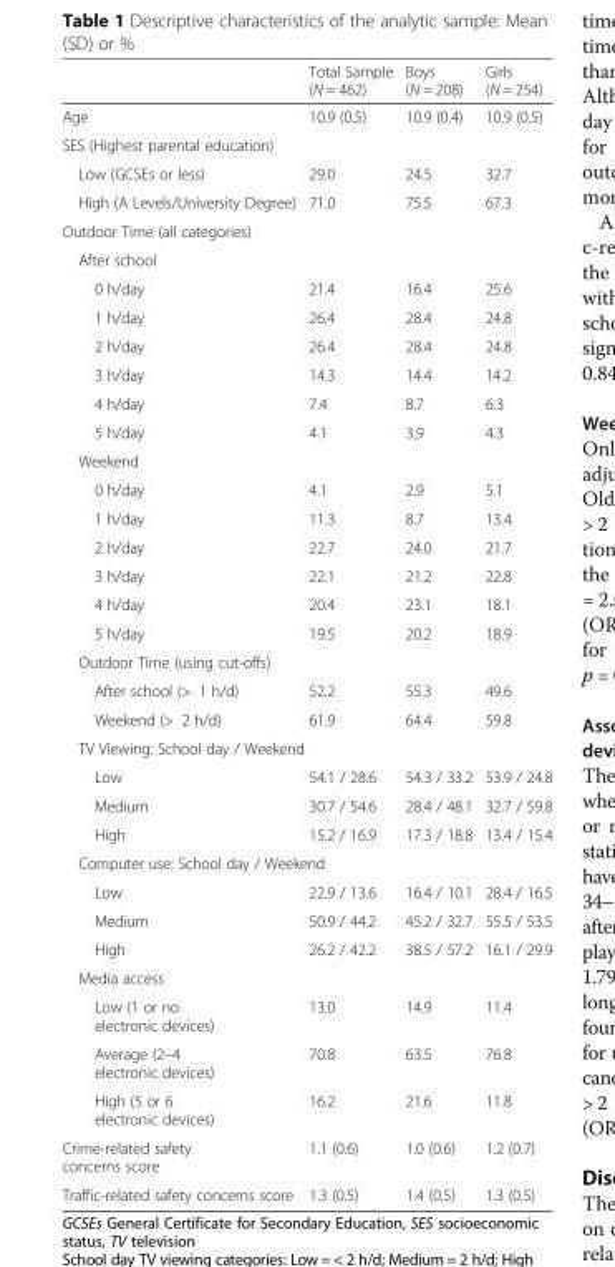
<table><thead><tr><td></td><td>Total Sample (N = 462)</td><td>Boys (N = 208)</td><td>Girls (N = 254)</td></tr></thead><tbody><tr><td>Age</td><td>10.9 (0.5)</td><td>10.9 (0.4)</td><td>10.9 (0.5)</td></tr><tr><td colspan="4">SES (Highest parental education)</td></tr><tr><td>Low (GCSEs or less)</td><td>29.0</td><td>24.5</td><td>32.7</td></tr><tr><td>High (A Levels/University Degree)</td><td>71.0</td><td>75.5</td><td>67.3</td></tr><tr><td colspan="4">Outdoor Time (all categories)</td></tr><tr><td colspan="4">After school</td></tr><tr><td>0 h/day</td><td>21.4</td><td>16.4</td><td>25.6</td></tr><tr><td>1 h/day</td><td>26.4</td><td>28.4</td><td>24.8</td></tr><tr><td>2 h/day</td><td>26.4</td><td>28.4</td><td>24.8</td></tr><tr><td>3 h/day</td><td>14.3</td><td>14.4</td><td>14.2</td></tr><tr><td>4 h/day</td><td>7.4</td><td>8.7</td><td>6.3</td></tr><tr><td>5 h/day</td><td>4.1</td><td>3,9</td><td>4.3</td></tr><tr><td colspan="4">Weekend</td></tr><tr><td>0 h/day</td><td>4.1</td><td>2.9</td><td>5.1</td></tr><tr><td>1 h/day</td><td>11.3</td><td>8.7</td><td>13.4</td></tr><tr><td>2 h/day</td><td>22.7</td><td>24.0</td><td>21.7</td></tr><tr><td>3 h/day</td><td>22.1</td><td>21.2</td><td>22.8</td></tr><tr><td>4 h/day</td><td>20.4</td><td>23.1</td><td>18.1</td></tr><tr><td>5 h/day</td><td>19.5</td><td>20.2</td><td>18.9</td></tr><tr><td colspan="4">Outdoor Time (using cut-offs)</td></tr><tr><td>After school (&gt; 1 h/d)</td><td>52.2</td><td>55.3</td><td>49.6</td></tr><tr><td>Weekend (&gt; 2 h/d)</td><td>61.9</td><td>64.4</td><td>59.8</td></tr><tr><td colspan="4">TV Viewing: School day / Weekend</td></tr><tr><td>Low</td><td>54.1 / 28.6</td><td>54.3 / 33.2</td><td>53.9 / 24.8</td></tr><tr><td>Medium</td><td>30.7 / 54.6</td><td>28.4 / 48.1</td><td>32.7 / 59.8</td></tr><tr><td>High</td><td>15.2 / 16.9</td><td>17.3 / 18.8</td><td>13.4 / 15.4</td></tr><tr><td colspan="4">Computer use: School day / Weekend</td></tr><tr><td>Low</td><td>22.9 / 13.6</td><td>16.4 / 10.1</td><td>28.4 / 16.5</td></tr><tr><td>Medium</td><td>50.9 / 44.2</td><td>45.2 / 32.7</td><td>55.5 / 53.5</td></tr><tr><td>High</td><td>26.2 / 42.2</td><td>38.5 / 57.2</td><td>16.1 / 29.9</td></tr><tr><td colspan="4">Media access</td></tr><tr><td>Low (1 or no electronic devices)</td><td>13.0</td><td>14.9</td><td>11.4</td></tr><tr><td>Average (2–4 electronic devices)</td><td>70.8</td><td>63.5</td><td>76.8</td></tr><tr><td>High (5 or 6 electronic devices)</td><td>16.2</td><td>21.6</td><td>11.8</td></tr><tr><td>Crime-related safety concerns score</td><td>1.1 (0.6)</td><td>1.0 (0.6)</td><td>1.2 (0.7)</td></tr><tr><td>Traffic-related safety concerns score</td><td>1.3 (0.5)</td><td>1.4 (0.5)</td><td>1.3 (0.5)</td></tr></tbody></table>